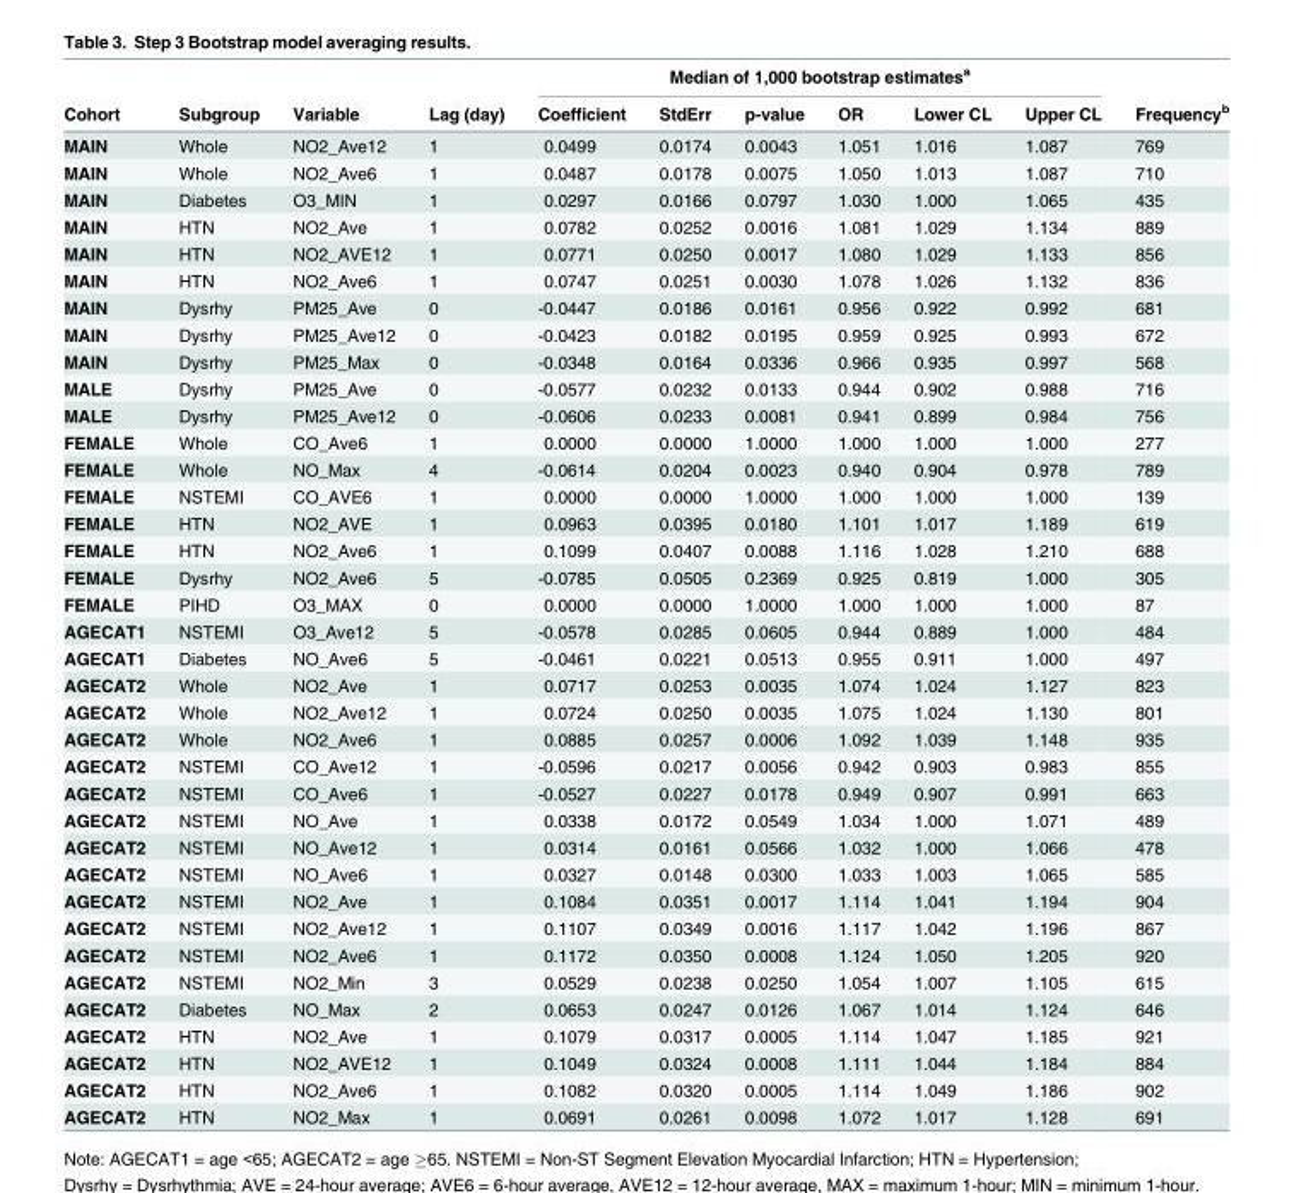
<table><thead><tr><td rowspan="2">Cohort</td><td rowspan="2">Subgroup</td><td rowspan="2">Variable</td><td rowspan="2">Lag (day)</td><td colspan="6">Median of 1,000 bootstrap estimates<sup>a</sup></td><td rowspan="2">Frequency<sup>b</sup></td></tr><tr><td>Coefficient</td><td>StdErr</td><td>p-value</td><td>OR</td><td>Lower CL</td><td>Upper CL</td></tr></thead><tbody><tr><td>MAIN</td><td>Whole</td><td>NO2_Ave12</td><td>1</td><td>0.0499</td><td>0.0174</td><td>0.0043</td><td>1.051</td><td>1.016</td><td>1.087</td><td>769</td></tr><tr><td>MAIN</td><td>Whole</td><td>NO2_Ave6</td><td>1</td><td>0.0487</td><td>0.0178</td><td>0.0075</td><td>1.050</td><td>1.013</td><td>1.087</td><td>710</td></tr><tr><td>MAIN</td><td>Diabetes</td><td>O3_MIN</td><td>1</td><td>0.0297</td><td>0.0166</td><td>0.0797</td><td>1.030</td><td>1.000</td><td>1.065</td><td>435</td></tr><tr><td>MAIN</td><td>HTN</td><td>NO2_Ave</td><td>1</td><td>0.0782</td><td>0.0252</td><td>0.0016</td><td>1.081</td><td>1.029</td><td>1.134</td><td>889</td></tr><tr><td>MAIN</td><td>HTN</td><td>NO2_AVE12</td><td>1</td><td>0.0771</td><td>0.0250</td><td>0.0017</td><td>1.080</td><td>1.029</td><td>1.133</td><td>856</td></tr><tr><td>MAIN</td><td>HTN</td><td>NO2_Ave6</td><td>1</td><td>0.0747</td><td>0.0251</td><td>0.0030</td><td>1.078</td><td>1.026</td><td>1.132</td><td>836</td></tr><tr><td>MAIN</td><td>Dysrhy</td><td>PM25_Ave</td><td>0</td><td>-0.0447</td><td>0.0186</td><td>0.0161</td><td>0.956</td><td>0.922</td><td>0.992</td><td>681</td></tr><tr><td>MAIN</td><td>Dysrhy</td><td>PM25_Ave12</td><td>0</td><td>-0.0423</td><td>0.0182</td><td>0.0195</td><td>0.959</td><td>0.925</td><td>0.993</td><td>672</td></tr><tr><td>MAIN</td><td>Dysrhy</td><td>PM25_Max</td><td>0</td><td>-0.0348</td><td>0.0164</td><td>0.0336</td><td>0.966</td><td>0.935</td><td>0.997</td><td>568</td></tr><tr><td>MALE</td><td>Dysrhy</td><td>PM25_Ave</td><td>0</td><td>-0.0577</td><td>0.0232</td><td>0.0133</td><td>0.944</td><td>0.902</td><td>0.988</td><td>716</td></tr><tr><td>MALE</td><td>Dysrhy</td><td>PM25_Ave12</td><td>0</td><td>-0.0606</td><td>0.0233</td><td>0.0081</td><td>0.941</td><td>0.899</td><td>0.984</td><td>756</td></tr><tr><td>FEMALE</td><td>Whole</td><td>CO_Ave6</td><td>1</td><td>0.0000</td><td>0.0000</td><td>1.0000</td><td>1.000</td><td>1.000</td><td>1.000</td><td>277</td></tr><tr><td>FEMALE</td><td>Whole</td><td>NO_Max</td><td>4</td><td>-0.0614</td><td>0.0204</td><td>0.0023</td><td>0.940</td><td>0.904</td><td>0.978</td><td>789</td></tr><tr><td>FEMALE</td><td>NSTEMI</td><td>CO_AVE6</td><td>1</td><td>0.0000</td><td>0.0000</td><td>1.0000</td><td>1.000</td><td>1.000</td><td>1.000</td><td>139</td></tr><tr><td>FEMALE</td><td>HTN</td><td>NO2_AVE</td><td>1</td><td>0.0963</td><td>0.0395</td><td>0.0180</td><td>1.101</td><td>1.017</td><td>1.189</td><td>619</td></tr><tr><td>FEMALE</td><td>HTN</td><td>NO2_Ave6</td><td>1</td><td>0.1099</td><td>0.0407</td><td>0.0088</td><td>1.116</td><td>1.028</td><td>1.210</td><td>688</td></tr><tr><td>FEMALE</td><td>Dysrhy</td><td>NO2_Ave6</td><td>5</td><td>-0.0785</td><td>0.0505</td><td>0.2369</td><td>0.925</td><td>0.819</td><td>1.000</td><td>305</td></tr><tr><td>FEMALE</td><td>PIHD</td><td>O3_MAX</td><td>0</td><td>0.0000</td><td>0.0000</td><td>1.0000</td><td>1.000</td><td>1.000</td><td>1.000</td><td>87</td></tr><tr><td>AGECAT1</td><td>NSTEMI</td><td>O3_Ave12</td><td>5</td><td>-0.0578</td><td>0.0285</td><td>0.0605</td><td>0.944</td><td>0.889</td><td>1.000</td><td>484</td></tr><tr><td>AGECAT1</td><td>Diabetes</td><td>NO_Ave6</td><td>5</td><td>-0.0461</td><td>0.0221</td><td>0.0513</td><td>0.955</td><td>0.911</td><td>1.000</td><td>497</td></tr><tr><td>AGECAT2</td><td>Whole</td><td>NO2_Ave</td><td>1</td><td>0.0717</td><td>0.0253</td><td>0.0035</td><td>1.074</td><td>1.024</td><td>1.127</td><td>823</td></tr><tr><td>AGECAT2</td><td>Whole</td><td>NO2_Ave12</td><td>1</td><td>0.0724</td><td>0.0250</td><td>0.0035</td><td>1.075</td><td>1.024</td><td>1.130</td><td>801</td></tr><tr><td>AGECAT2</td><td>Whole</td><td>NO2_Ave6</td><td>1</td><td>0.0885</td><td>0.0257</td><td>0.0006</td><td>1.092</td><td>1.039</td><td>1.148</td><td>935</td></tr><tr><td>AGECAT2</td><td>NSTEMI</td><td>CO_Ave12</td><td>1</td><td>-0.0596</td><td>0.0217</td><td>0.0056</td><td>0.942</td><td>0.903</td><td>0.983</td><td>855</td></tr><tr><td>AGECAT2</td><td>NSTEMI</td><td>CO_Ave6</td><td>1</td><td>-0.0527</td><td>0.0227</td><td>0.0178</td><td>0.949</td><td>0.907</td><td>0.991</td><td>663</td></tr><tr><td>AGECAT2</td><td>NSTEMI</td><td>NO_Ave</td><td>1</td><td>0.0338</td><td>0.0172</td><td>0.0549</td><td>1.034</td><td>1.000</td><td>1.071</td><td>489</td></tr><tr><td>AGECAT2</td><td>NSTEMI</td><td>NO_Ave12</td><td>1</td><td>0.0314</td><td>0.0161</td><td>0.0566</td><td>1.032</td><td>1.000</td><td>1.066</td><td>478</td></tr><tr><td>AGECAT2</td><td>NSTEMI</td><td>NO_Ave6</td><td>1</td><td>0.0327</td><td>0.0148</td><td>0.0300</td><td>1.033</td><td>1.003</td><td>1.065</td><td>585</td></tr><tr><td>AGECAT2</td><td>NSTEMI</td><td>NO2_Ave</td><td>1</td><td>0.1084</td><td>0.0351</td><td>0.0017</td><td>1.114</td><td>1.041</td><td>1.194</td><td>904</td></tr><tr><td>AGECAT2</td><td>NSTEMI</td><td>NO2_Ave12</td><td>1</td><td>0.1107</td><td>0.0349</td><td>0.0016</td><td>1.117</td><td>1.042</td><td>1.196</td><td>867</td></tr><tr><td>AGECAT2</td><td>NSTEMI</td><td>NO2_Ave6</td><td>1</td><td>0.1172</td><td>0.0350</td><td>0.0008</td><td>1.124</td><td>1.050</td><td>1.205</td><td>920</td></tr><tr><td>AGECAT2</td><td>NSTEMI</td><td>NO2_Min</td><td>3</td><td>0.0529</td><td>0.0238</td><td>0.0250</td><td>1.054</td><td>1.007</td><td>1.105</td><td>615</td></tr><tr><td>AGECAT2</td><td>Diabetes</td><td>NO_Max</td><td>2</td><td>0.0653</td><td>0.0247</td><td>0.0126</td><td>1.067</td><td>1.014</td><td>1.124</td><td>646</td></tr><tr><td>AGECAT2</td><td>HTN</td><td>NO2_Ave</td><td>1</td><td>0.1079</td><td>0.0317</td><td>0.0005</td><td>1.114</td><td>1.047</td><td>1.185</td><td>921</td></tr><tr><td>AGECAT2</td><td>HTN</td><td>NO2_AVE12</td><td>1</td><td>0.1049</td><td>0.0324</td><td>0.0008</td><td>1.111</td><td>1.044</td><td>1.184</td><td>884</td></tr><tr><td>AGECAT2</td><td>HTN</td><td>NO2_Ave6</td><td>1</td><td>0.1082</td><td>0.0320</td><td>0.0005</td><td>1.114</td><td>1.049</td><td>1.186</td><td>902</td></tr><tr><td>AGECAT2</td><td>HTN</td><td>NO2_Max</td><td>1</td><td>0.0691</td><td>0.0261</td><td>0.0098</td><td>1.072</td><td>1.017</td><td>1.128</td><td>691</td></tr></tbody></table>